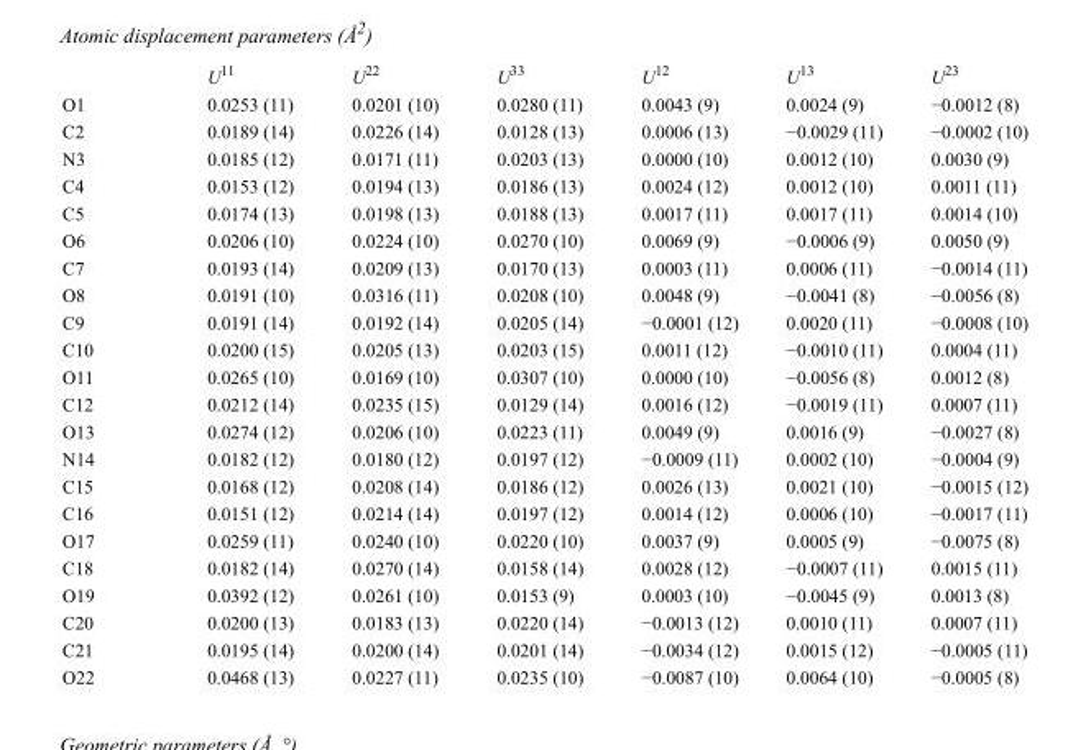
<table><thead><tr><td></td><td>U<sup>11</sup></td><td>U<sup>22</sup></td><td>U<sup>33</sup></td><td>U<sup>12</sup></td><td>U<sup>13</sup></td><td>U<sup>23</sup></td></tr></thead><tbody><tr><td>O1</td><td>0.0253 (11)</td><td>0.0201 (10)</td><td>0.0280 (11)</td><td>0.0043 (9)</td><td>0.0024 (9)</td><td>−0.0012 (8)</td></tr><tr><td>C2</td><td>0.0189 (14)</td><td>0.0226 (14)</td><td>0.0128 (13)</td><td>0.0006 (13)</td><td>−0.0029 (11)</td><td>−0.0002 (10)</td></tr><tr><td>N3</td><td>0.0185 (12)</td><td>0.0171 (11)</td><td>0.0203 (13)</td><td>0.0000 (10)</td><td>0.0012 (10)</td><td>0.0030 (9)</td></tr><tr><td>C4</td><td>0.0153 (12)</td><td>0.0194 (13)</td><td>0.0186 (13)</td><td>0.0024 (12)</td><td>0.0012 (10)</td><td>0.0011 (11)</td></tr><tr><td>C5</td><td>0.0174 (13)</td><td>0.0198 (13)</td><td>0.0188 (13)</td><td>0.0017 (11)</td><td>0.0017 (11)</td><td>0.0014 (10)</td></tr><tr><td>O6</td><td>0.0206 (10)</td><td>0.0224 (10)</td><td>0.0270 (10)</td><td>0.0069 (9)</td><td>−0.0006 (9)</td><td>0.0050 (9)</td></tr><tr><td>C7</td><td>0.0193 (14)</td><td>0.0209 (13)</td><td>0.0170 (13)</td><td>0.0003 (11)</td><td>0.0006 (11)</td><td>−0.0014 (11)</td></tr><tr><td>O8</td><td>0.0191 (10)</td><td>0.0316 (11)</td><td>0.0208 (10)</td><td>0.0048 (9)</td><td>−0.0041 (8)</td><td>−0.0056 (8)</td></tr><tr><td>C9</td><td>0.0191 (14)</td><td>0.0192 (14)</td><td>0.0205 (14)</td><td>−0.0001 (12)</td><td>0.0020 (11)</td><td>−0.0008 (10)</td></tr><tr><td>C10</td><td>0.0200 (15)</td><td>0.0205 (13)</td><td>0.0203 (15)</td><td>0.0011 (12)</td><td>−0.0010 (11)</td><td>0.0004 (11)</td></tr><tr><td>O11</td><td>0.0265 (10)</td><td>0.0169 (10)</td><td>0.0307 (10)</td><td>0.0000 (10)</td><td>−0.0056 (8)</td><td>0.0012 (8)</td></tr><tr><td>C12</td><td>0.0212 (14)</td><td>0.0235 (15)</td><td>0.0129 (14)</td><td>0.0016 (12)</td><td>−0.0019 (11)</td><td>0.0007 (11)</td></tr><tr><td>O13</td><td>0.0274 (12)</td><td>0.0206 (10)</td><td>0.0223 (11)</td><td>0.0049 (9)</td><td>0.0016 (9)</td><td>−0.0027 (8)</td></tr><tr><td>N14</td><td>0.0182 (12)</td><td>0.0180 (12)</td><td>0.0197 (12)</td><td>−0.0009 (11)</td><td>0.0002 (10)</td><td>−0.0004 (9)</td></tr><tr><td>C15</td><td>0.0168 (12)</td><td>0.0208 (14)</td><td>0.0186 (12)</td><td>0.0026 (13)</td><td>0.0021 (10)</td><td>−0.0015 (12)</td></tr><tr><td>C16</td><td>0.0151 (12)</td><td>0.0214 (14)</td><td>0.0197 (12)</td><td>0.0014 (12)</td><td>0.0006 (10)</td><td>−0.0017 (11)</td></tr><tr><td>O17</td><td>0.0259 (11)</td><td>0.0240 (10)</td><td>0.0220 (10)</td><td>0.0037 (9)</td><td>0.0005 (9)</td><td>−0.0075 (8)</td></tr><tr><td>C18</td><td>0.0182 (14)</td><td>0.0270 (14)</td><td>0.0158 (14)</td><td>0.0028 (12)</td><td>−0.0007 (11)</td><td>0.0015 (11)</td></tr><tr><td>O19</td><td>0.0392 (12)</td><td>0.0261 (10)</td><td>0.0153 (9)</td><td>0.0003 (10)</td><td>−0.0045 (9)</td><td>0.0013 (8)</td></tr><tr><td>C20</td><td>0.0200 (13)</td><td>0.0183 (13)</td><td>0.0220 (14)</td><td>−0.0013 (12)</td><td>0.0010 (11)</td><td>0.0007 (11)</td></tr><tr><td>C21</td><td>0.0195 (14)</td><td>0.0200 (14)</td><td>0.0201 (14)</td><td>−0.0034 (12)</td><td>0.0015 (12)</td><td>−0.0005 (11)</td></tr><tr><td>O22</td><td>0.0468 (13)</td><td>0.0227 (11)</td><td>0.0235 (10)</td><td>−0.0087 (10)</td><td>0.0064 (10)</td><td>−0.0005 (8)</td></tr></tbody></table>